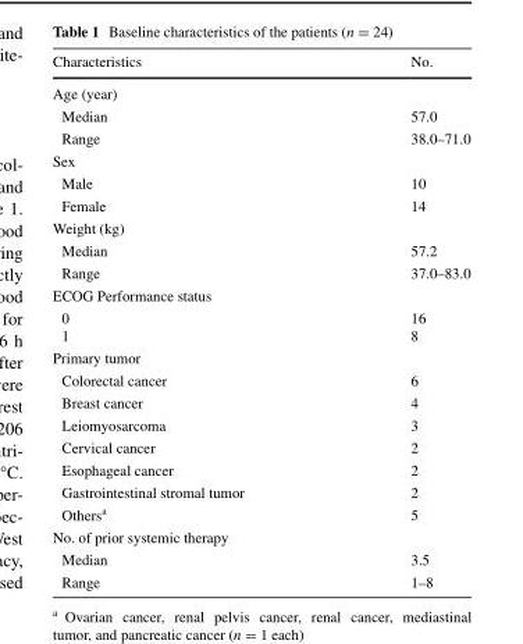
<table><thead><tr><td>Characteristics</td><td>No.</td></tr></thead><tbody><tr><td colspan="2">Age (year)</td></tr><tr><td>Median</td><td>57.0</td></tr><tr><td>Range</td><td>38.0–71.0</td></tr><tr><td colspan="2">Sex</td></tr><tr><td>Male</td><td>10</td></tr><tr><td>Female</td><td>14</td></tr><tr><td colspan="2">Weight (kg)</td></tr><tr><td>Median</td><td>57.2</td></tr><tr><td>Range</td><td>37.0–83.0</td></tr><tr><td colspan="2">ECOG Performance status</td></tr><tr><td>0 1</td><td>16 8</td></tr><tr><td colspan="2">Primary tumor</td></tr><tr><td>Colorectal cancer</td><td>6</td></tr><tr><td>Breast cancer</td><td>4</td></tr><tr><td>Leiomyosarcoma</td><td>3</td></tr><tr><td>Cervical cancer</td><td>2</td></tr><tr><td>Esophageal cancer</td><td>2</td></tr><tr><td>Gastrointestinal stromal tumor</td><td>2</td></tr><tr><td>Others<sup>a</sup></td><td>5</td></tr><tr><td colspan="2">No. of prior systemic therapy</td></tr><tr><td>Median</td><td>3.5</td></tr><tr><td>Range</td><td>1–8</td></tr></tbody></table>